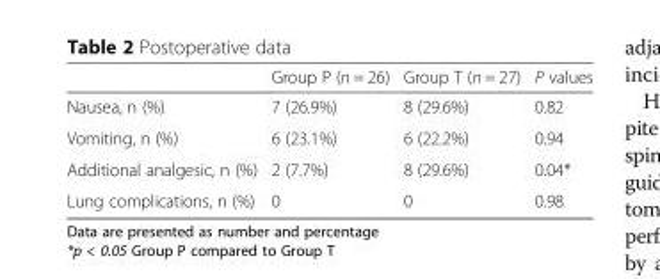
<table><thead><tr><td></td><td>Group P (n = 26)</td><td>Group T (n = 27)</td><td>P values</td></tr></thead><tbody><tr><td>Nausea, n (%)</td><td>7 (26.9%)</td><td>8 (29.6%)</td><td>0.82</td></tr><tr><td>Vomiting, n (%)</td><td>6 (23.1%)</td><td>6 (22.2%)</td><td>0.94</td></tr><tr><td>Additional analgesic, n (%)</td><td>2 (7.7%)</td><td>8 (29.6%)</td><td>0.04*</td></tr><tr><td>Lung complications, n (%)</td><td>0</td><td>0</td><td>0.98</td></tr></tbody></table>